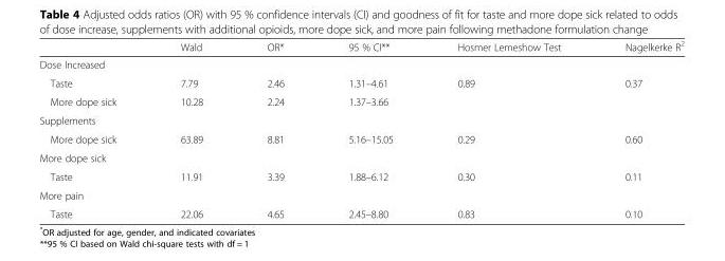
<table><thead><tr><td></td><td>Wald</td><td>OR*</td><td>95 % CI**</td><td>Hosmer Lemeshow Test</td><td>Nagelkerke R<sup>2</sup></td></tr></thead><tbody><tr><td colspan="6">Dose Increased</td></tr><tr><td>Taste</td><td>7.79</td><td>2.46</td><td>1.31–4.61</td><td>0.89</td><td>0.37</td></tr><tr><td>More dope sick</td><td>10.28</td><td>2.24</td><td>1.37–3.66</td><td></td><td></td></tr><tr><td colspan="6">Supplements</td></tr><tr><td>More dope sick</td><td>63.89</td><td>8.81</td><td>5.16–15.05</td><td>0.29</td><td>0.60</td></tr><tr><td colspan="6">More dope sick</td></tr><tr><td>Taste</td><td>11.91</td><td>3.39</td><td>1.88–6.12</td><td>0.30</td><td>0.11</td></tr><tr><td colspan="6">More pain</td></tr><tr><td>Taste</td><td>22.06</td><td>4.65</td><td>2.45–8.80</td><td>0.83</td><td>0.10</td></tr></tbody></table>